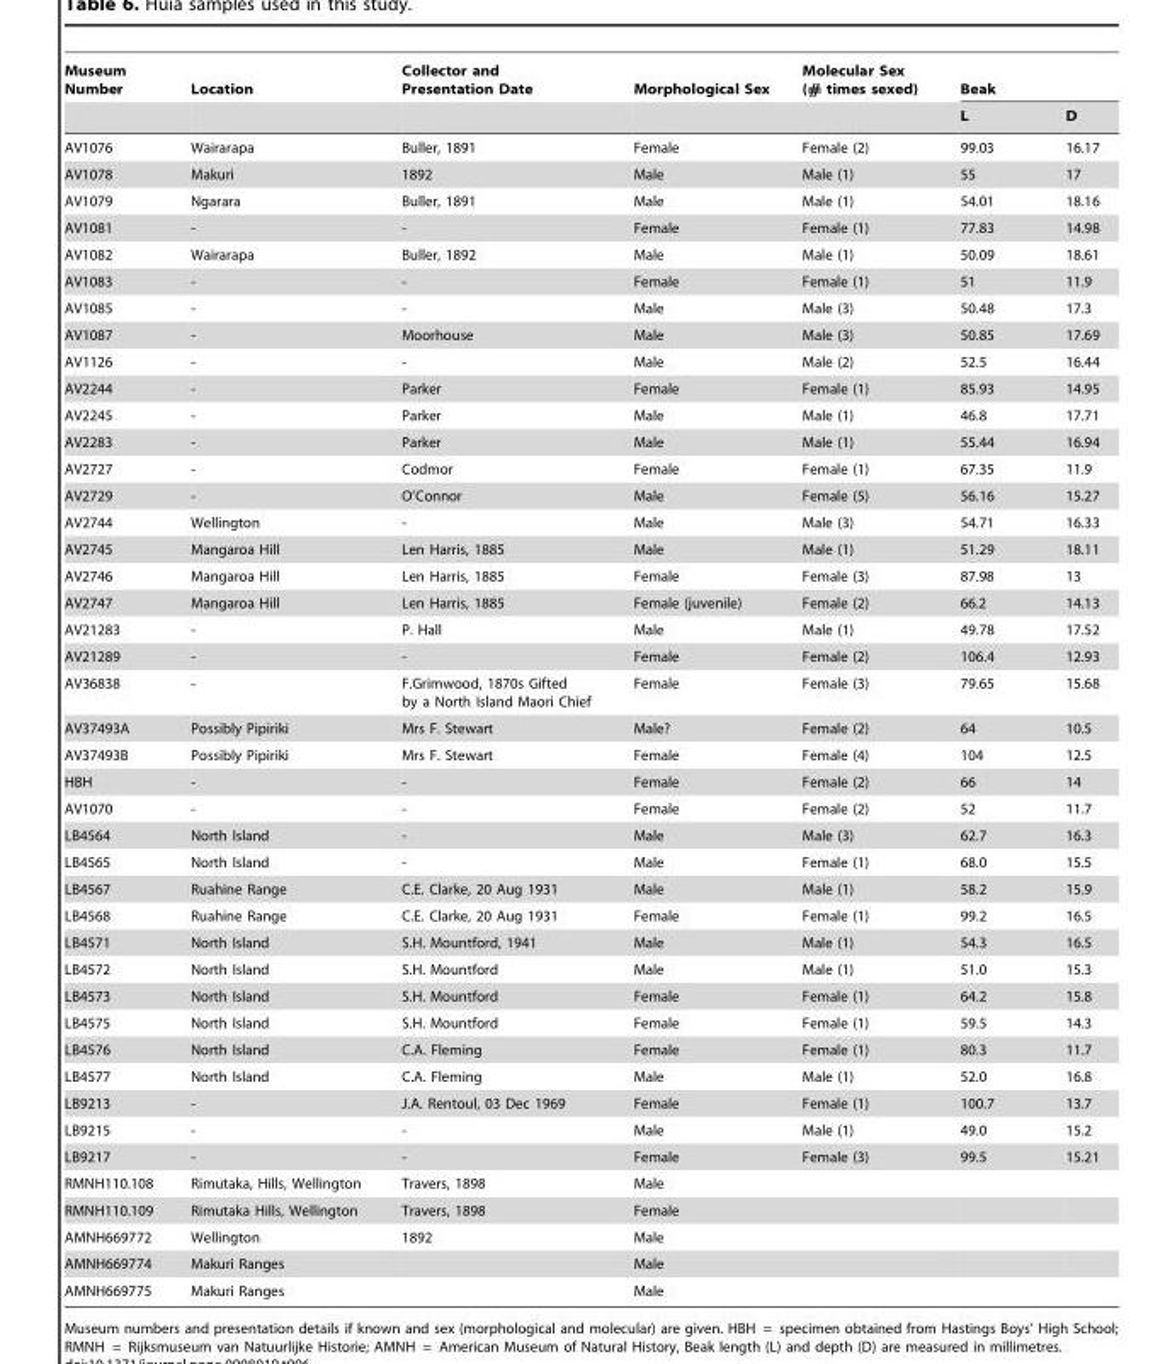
<table><thead><tr><td rowspan="2">Museum Number</td><td rowspan="2">Location</td><td rowspan="2">Collector and Presentation Date</td><td rowspan="2">Morphological Sex</td><td rowspan="2">Molecular Sex (# times sexed)</td><td colspan="2">Beak</td></tr><tr><td>L</td><td>D</td></tr></thead><tbody><tr><td>AV1076</td><td>Wairarapa</td><td>Buller, 1891</td><td>Female</td><td>Female (2)</td><td>99.03</td><td>16.17</td></tr><tr><td>AV1078</td><td>Makuri</td><td>1892</td><td>Male</td><td>Male (1)</td><td>55</td><td>17</td></tr><tr><td>AV1079</td><td>Ngarara</td><td>Buller, 1891</td><td>Male</td><td>Male (1)</td><td>54.01</td><td>18.16</td></tr><tr><td>AV1081</td><td>-</td><td>-</td><td>Female</td><td>Female (1)</td><td>77.83</td><td>14.98</td></tr><tr><td>AV1082</td><td>Wairarapa</td><td>Buller, 1892</td><td>Male</td><td>Male (1)</td><td>50.09</td><td>18.61</td></tr><tr><td>AV1083</td><td>-</td><td>-</td><td>Female</td><td>Female (1)</td><td>51</td><td>11.9</td></tr><tr><td>AV1085</td><td>-</td><td>-</td><td>Male</td><td>Male (3)</td><td>50.48</td><td>17.3</td></tr><tr><td>AV1087</td><td>-</td><td>Moorhouse</td><td>Male</td><td>Male (3)</td><td>50.85</td><td>17.69</td></tr><tr><td>AV1126</td><td>-</td><td>-</td><td>Male</td><td>Male (2)</td><td>52.5</td><td>16.44</td></tr><tr><td>AV2244</td><td>-</td><td>Parker</td><td>Female</td><td>Female (1)</td><td>85.93</td><td>14.95</td></tr><tr><td>AV2245</td><td>-</td><td>Parker</td><td>Male</td><td>Male (1)</td><td>46.8</td><td>17.71</td></tr><tr><td>AV2283</td><td>-</td><td>Parker</td><td>Male</td><td>Male (1)</td><td>55.44</td><td>16.94</td></tr><tr><td>AV2727</td><td>-</td><td>Codmor</td><td>Female</td><td>Female (1)</td><td>67.35</td><td>11.9</td></tr><tr><td>AV2729</td><td>-</td><td>O’Connor</td><td>Male</td><td>Female (5)</td><td>56.16</td><td>15.27</td></tr><tr><td>AV2744</td><td>Wellington</td><td>-</td><td>Male</td><td>Male (3)</td><td>54.71</td><td>16.33</td></tr><tr><td>AV2745</td><td>Mangaroa Hill</td><td>Len Harris, 1885</td><td>Male</td><td>Male (1)</td><td>51.29</td><td>18.11</td></tr><tr><td>AV2746</td><td>Mangaroa Hill</td><td>Len Harris, 1885</td><td>Female</td><td>Female (3)</td><td>87.98</td><td>13</td></tr><tr><td>AV2747</td><td>Mangaroa Hill</td><td>Len Harris, 1885</td><td>Female (juvenile)</td><td>Female (2)</td><td>66.2</td><td>14.13</td></tr><tr><td>AV21283</td><td>-</td><td>P. Hall</td><td>Male</td><td>Male (1)</td><td>49.78</td><td>17.52</td></tr><tr><td>AV21289</td><td>-</td><td>-</td><td>Female</td><td>Female (2)</td><td>106.4</td><td>12.93</td></tr><tr><td>AV36838</td><td>-</td><td>F.Grimwood, 1870s Gifted by a North Island Maori Chief</td><td>Female</td><td>Female (3)</td><td>79.65</td><td>15.68</td></tr><tr><td>AV37493A</td><td>Possibly Pipiriki</td><td>Mrs F. Stewart</td><td>Male?</td><td>Female (2)</td><td>64</td><td>10.5</td></tr><tr><td>AV37493B</td><td>Possibly Pipiriki</td><td>Mrs F. Stewart</td><td>Female</td><td>Female (4)</td><td>104</td><td>12.5</td></tr><tr><td>HBH</td><td>-</td><td>-</td><td>Female</td><td>Female (2)</td><td>66</td><td>14</td></tr><tr><td>AV1070</td><td>-</td><td>-</td><td>Female</td><td>Female (2)</td><td>52</td><td>11.7</td></tr><tr><td>LB4564</td><td>North Island</td><td>-</td><td>Male</td><td>Male (3)</td><td>62.7</td><td>16.3</td></tr><tr><td>LB4565</td><td>North Island</td><td>-</td><td>Male</td><td>Female (1)</td><td>68.0</td><td>15.5</td></tr><tr><td>LB4567</td><td>Ruahine Range</td><td>C.E. Clarke, 20 Aug 1931</td><td>Male</td><td>Male (1)</td><td>58.2</td><td>15.9</td></tr><tr><td>LB4568</td><td>Ruahine Range</td><td>C.E. Clarke, 20 Aug 1931</td><td>Female</td><td>Female (1)</td><td>99.2</td><td>16.5</td></tr><tr><td>LB4571</td><td>North Island</td><td>S.H. Mountford, 1941</td><td>Male</td><td>Male (1)</td><td>54.3</td><td>16.5</td></tr><tr><td>LB4572</td><td>North Island</td><td>S.H. Mountford</td><td>Male</td><td>Male (1)</td><td>51.0</td><td>15.3</td></tr><tr><td>LB4573</td><td>North Island</td><td>S.H. Mountford</td><td>Female</td><td>Female (1)</td><td>64.2</td><td>15.8</td></tr><tr><td>LB4575</td><td>North Island</td><td>S.H. Mountford</td><td>Female</td><td>Female (1)</td><td>59.5</td><td>14.3</td></tr><tr><td>LB4576</td><td>North Island</td><td>C.A. Fleming</td><td>Female</td><td>Female (1)</td><td>80.3</td><td>11.7</td></tr><tr><td>LB4577</td><td>North Island</td><td>C.A. Fleming</td><td>Male</td><td>Male (1)</td><td>52.0</td><td>16.8</td></tr><tr><td>LB9213</td><td>-</td><td>J.A. Rentoul, 03 Dec 1969</td><td>Female</td><td>Female (1)</td><td>100.7</td><td>13.7</td></tr><tr><td>LB9215</td><td>-</td><td>-</td><td>Male</td><td>Male (1)</td><td>49.0</td><td>15.2</td></tr><tr><td>LB9217</td><td>-</td><td>-</td><td>Female</td><td>Female (3)</td><td>99.5</td><td>15.21</td></tr><tr><td>RMNH110.108</td><td>Rimutaka, Hills, Wellington</td><td>Travers, 1898</td><td>Male</td><td></td><td></td><td></td></tr><tr><td>RMNH110.109</td><td>Rimutaka Hills, Wellington</td><td>Travers, 1898</td><td>Female</td><td></td><td></td><td></td></tr><tr><td>AMNH669772</td><td>Wellington</td><td>1892</td><td>Male</td><td></td><td></td><td></td></tr><tr><td>AMNH669774</td><td>Makuri Ranges</td><td></td><td>Male</td><td></td><td></td><td></td></tr><tr><td>AMNH669775</td><td>Makuri Ranges</td><td></td><td>Male</td><td></td><td></td><td></td></tr></tbody></table>